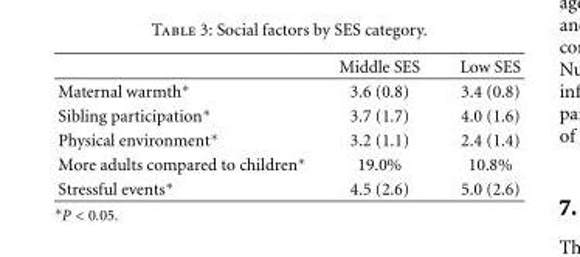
<table><thead><tr><td></td><td>Middle SES</td><td>Low SES</td></tr></thead><tbody><tr><td>Maternal warmth∗</td><td>3.6 (0.8)</td><td>3.4 (0.8)</td></tr><tr><td>Sibling participation∗</td><td>3.7 (1.7)</td><td>4.0 (1.6)</td></tr><tr><td>Physical environment∗</td><td>3.2 (1.1)</td><td>2.4 (1.4)</td></tr><tr><td>More adults compared to children∗</td><td>19.0%</td><td>10.8%</td></tr><tr><td>Stressful events∗</td><td>4.5 (2.6)</td><td>5.0 (2.6)</td></tr></tbody></table>